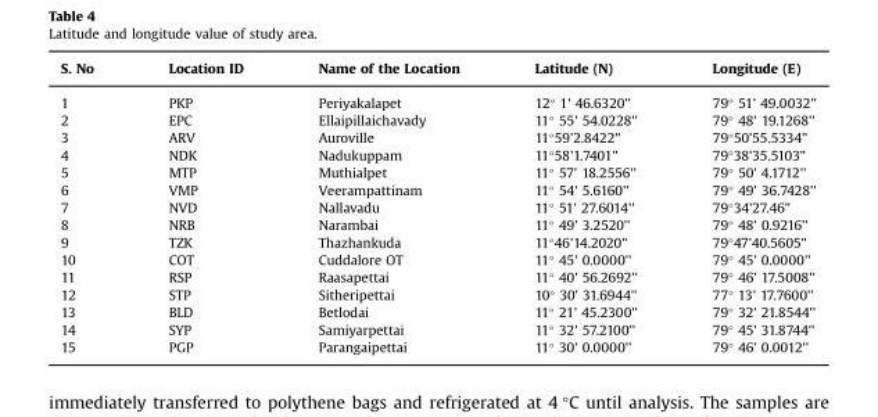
<table><thead><tr><td>S. No</td><td>Location ID</td><td>Name of the Location</td><td>Latitude (N)</td><td>Longitude (E)</td></tr></thead><tbody><tr><td>1</td><td>PKP</td><td>Periyakalapet</td><td>12° 1&#x27; 46.6320&#x27;&#x27;</td><td>79° 51&#x27; 49.0032&#x27;&#x27;</td></tr><tr><td>2</td><td>EPC</td><td>Ellaipillaichavady</td><td>11° 55&#x27; 54.0228&#x27;&#x27;</td><td>79° 48&#x27; 19.1268&#x27;&#x27;</td></tr><tr><td>3</td><td>ARV</td><td>Auroville</td><td>11°59&#x27;2.8422&quot;</td><td>79°50&#x27;55.5334&quot;</td></tr><tr><td>4</td><td>NDK</td><td>Nadukuppam</td><td>11°58&#x27;1.7401&quot;</td><td>79°38&#x27;35.5103&quot;</td></tr><tr><td>5</td><td>MTP</td><td>Muthialpet</td><td>11° 57&#x27; 18.2556&#x27;&#x27;</td><td>79° 50&#x27; 4.1712&#x27;&#x27;</td></tr><tr><td>6</td><td>VMP</td><td>Veerampattinam</td><td>11° 54&#x27; 5.6160&#x27;&#x27;</td><td>79° 49&#x27; 36.7428&#x27;&#x27;</td></tr><tr><td>7</td><td>NVD</td><td>Nallavadu</td><td>11° 51&#x27; 27.6014&#x27;&#x27;</td><td>79°34&#x27;27.46&quot;</td></tr><tr><td>8</td><td>NRB</td><td>Narambai</td><td>11° 49&#x27; 3.2520&#x27;&#x27;</td><td>79° 48&#x27; 0.9216&#x27;&#x27;</td></tr><tr><td>9</td><td>TZK</td><td>Thazhankuda</td><td>11°46&#x27;14.2020&quot;</td><td>79°47&#x27;40.5605&quot;</td></tr><tr><td>10</td><td>COT</td><td>Cuddalore OT</td><td>11° 45&#x27; 0.0000&#x27;&#x27;</td><td>79° 45&#x27; 0.0000&#x27;&#x27;</td></tr><tr><td>11</td><td>RSP</td><td>Raasapettai</td><td>11° 40&#x27; 56.2692&#x27;&#x27;</td><td>79° 46&#x27; 17.5008&#x27;&#x27;</td></tr><tr><td>12</td><td>STP</td><td>Sitheripettai</td><td>10° 30&#x27; 31.6944&#x27;&#x27;</td><td>77° 13&#x27; 17.7600&#x27;&#x27;</td></tr><tr><td>13</td><td>BLD</td><td>Betlodai</td><td>11° 21&#x27; 45.2300&#x27;&#x27;</td><td>79° 32&#x27; 21.8544&#x27;&#x27;</td></tr><tr><td>14</td><td>SYP</td><td>Samiyarpettai</td><td>11° 32&#x27; 57.2100&#x27;&#x27;</td><td>79° 45&#x27; 31.8744&#x27;&#x27;</td></tr><tr><td>15</td><td>PGP</td><td>Parangaipettai</td><td>11° 30&#x27; 0.0000&#x27;&#x27;</td><td>79° 46&#x27; 0.0012&#x27;&#x27;</td></tr></tbody></table>